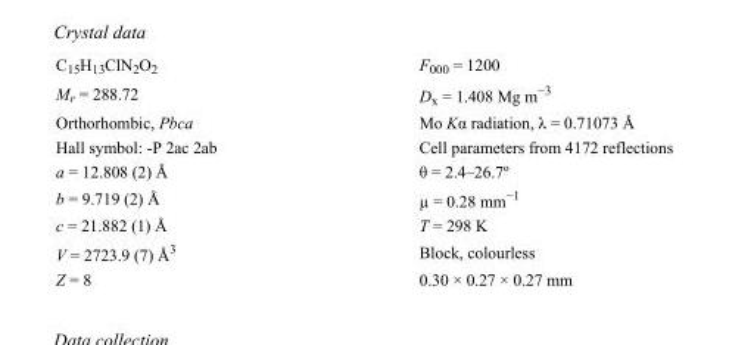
<table><tbody><tr><td>C<sub>15</sub>H<sub>13</sub>ClN<sub>2</sub>O<sub>2</sub></td><td>F000 = 1200</td></tr><tr><td>M<sub>r</sub> = 288.72</td><td>D<sub>x</sub> = 1.408 Mg m<sup>−3</sup></td></tr><tr><td>Orthorhombic, Pbca</td><td>Mo Kα radiation, λ = 0.71073 Å</td></tr><tr><td>Hall symbol: -P 2ac 2ab</td><td>Cell parameters from 4172 reflections</td></tr><tr><td>a = 12.808 (2) Å</td><td>θ = 2.4–26.7º</td></tr><tr><td>b = 9.719 (2) Å</td><td>µ = 0.28 mm<sup>−1</sup></td></tr><tr><td>c = 21.882 (1) Å</td><td>T = 298 K</td></tr><tr><td>V = 2723.9 (7) Å<sup>3</sup></td><td>Block, colourless</td></tr><tr><td>Z = 8</td><td>0.30 × 0.27 × 0.27 mm</td></tr></tbody></table>